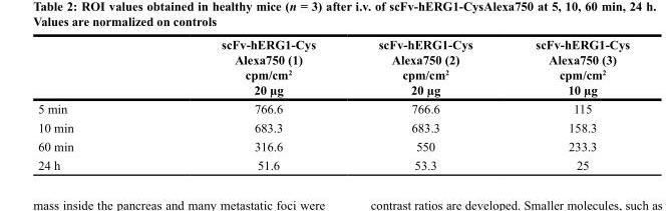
<table><thead><tr><td></td><td>scFv-hERG1-Cys Alexa750 (1) cpm/cm<sup>2</sup> 20 µg</td><td>scFv-hERG1-Cys Alexa750 (2) cpm/cm<sup>2</sup> 20 µg</td><td>scFv-hERG1-Cys Alexa750 (3) cpm/cm<sup>2</sup> 10 µg</td></tr></thead><tbody><tr><td>5 min</td><td>766.6</td><td>766.6</td><td>115</td></tr><tr><td>10 min</td><td>683.3</td><td>683.3</td><td>158.3</td></tr><tr><td>60 min</td><td>316.6</td><td>550</td><td>233.3</td></tr><tr><td>24 h</td><td>51.6</td><td>53.3</td><td>25</td></tr></tbody></table>